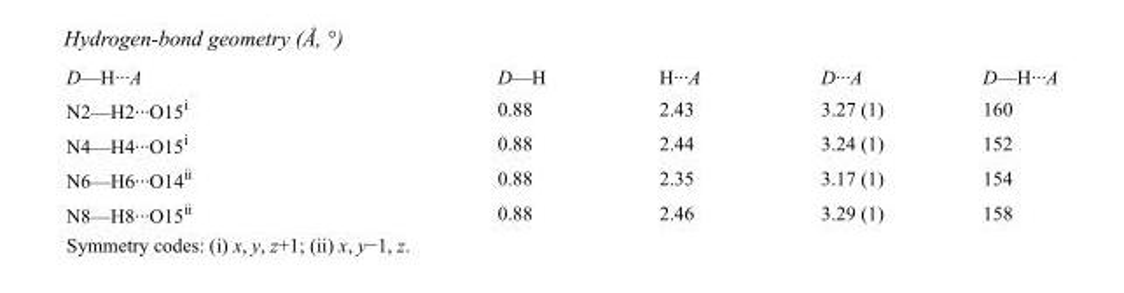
<table><tbody><tr><td>D—H···A</td><td>D—H</td><td>H···A</td><td>D···A</td><td>D—H···A</td></tr><tr><td>N2—H2···O15<sup>i</sup></td><td>0.88</td><td>2.43</td><td>3.27 (1)</td><td>160</td></tr><tr><td>N4—H4···O15<sup>i</sup></td><td>0.88</td><td>2.44</td><td>3.24 (1)</td><td>152</td></tr><tr><td>N6—H6···O14<sup>ii</sup></td><td>0.88</td><td>2.35</td><td>3.17 (1)</td><td>154</td></tr><tr><td>N8—H8···O15<sup>ii</sup></td><td>0.88</td><td>2.46</td><td>3.29 (1)</td><td>158</td></tr></tbody></table>